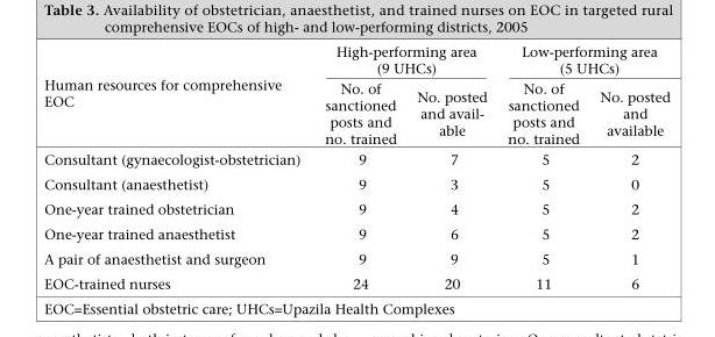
<table><thead><tr><td rowspan="2">Human resources for comprehensive EOC</td><td colspan="2">High-performing area (9 UHCs)</td><td colspan="2">Low-performing area (5 UHCs)</td></tr><tr><td>No. of sanctioned posts and no. trained</td><td>No. posted and avail- able</td><td>No. of sanctioned posts and no. trained</td><td>No. posted and available</td></tr></thead><tbody><tr><td>Consultant (gynaecologist-obstetrician)</td><td>9</td><td>7</td><td>5</td><td>2</td></tr><tr><td>Consultant (anaesthetist)</td><td>9</td><td>3</td><td>5</td><td>0</td></tr><tr><td>One-year trained obstetrician</td><td>9</td><td>4</td><td>5</td><td>2</td></tr><tr><td>One-year trained anaesthetist</td><td>9</td><td>6</td><td>5</td><td>2</td></tr><tr><td>A pair of anaesthetist and surgeon</td><td>9</td><td>9</td><td>5</td><td>1</td></tr><tr><td>EOC-trained nurses</td><td>24</td><td>20</td><td>11</td><td>6</td></tr></tbody></table>